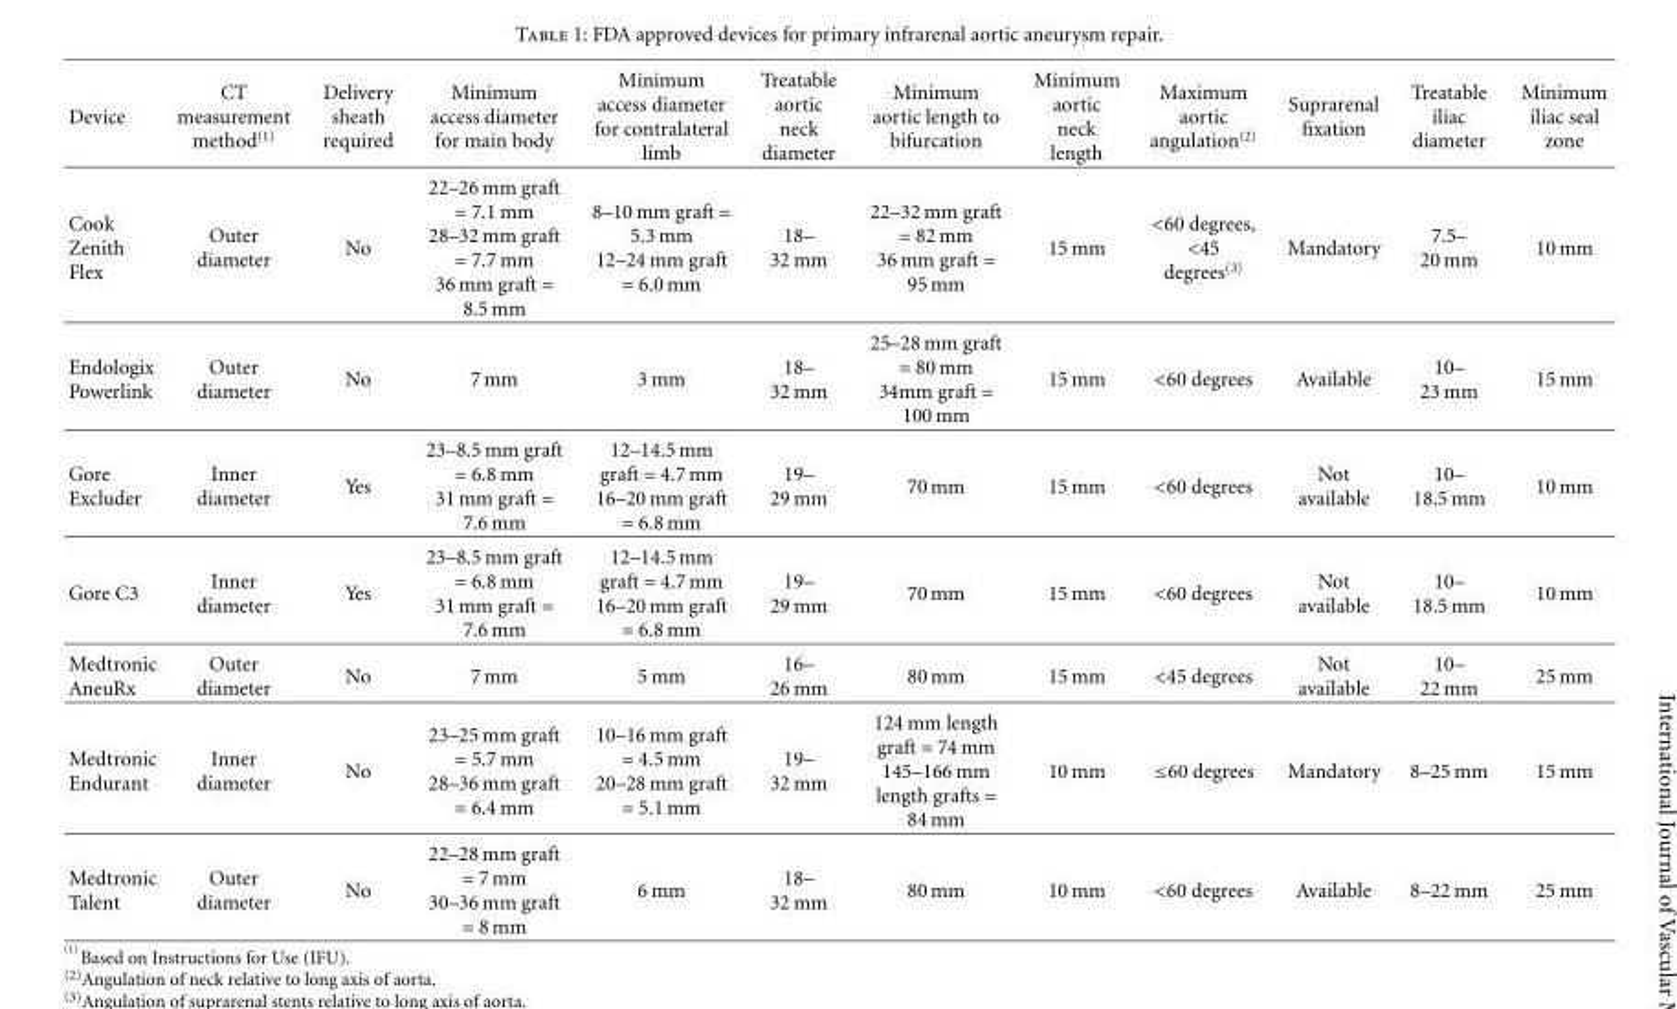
<table><thead><tr><td>Device</td><td>CT measurement method<sup>(1)</sup></td><td>Delivery sheath required</td><td>Minimum access diameter for main body</td><td>Minimum access diameter for contralateral limb</td><td>Treatable aortic neck diameter</td><td>Minimum aortic length to bifurcation</td><td>Minimum aortic neck length</td><td>Maximum aortic angulation<sup>(2)</sup></td><td>Suprarenal fixation</td><td>Treatable iliac diameter</td><td>Minimum iliac seal zone</td></tr></thead><tbody><tr><td>Cook Zenith Flex</td><td>Outer diameter</td><td>No</td><td>22–26 mm graft = 7.1 mm 28–32 mm graft = 7.7 mm 36 mm graft = 8.5 mm</td><td>8–10 mm graft = 5.3 mm 12–24 mm graft = 6.0 mm</td><td>18– 32 mm</td><td>22–32 mm graft = 82 mm 36 mm graft = 95 mm</td><td>15 mm</td><td>&lt;60 degrees, &lt;45 degrees<sup>(3)</sup></td><td>Mandatory</td><td>7.5– 20 mm</td><td>10 mm</td></tr><tr><td>Endologix Powerlink</td><td>Outer diameter</td><td>No</td><td>7 mm</td><td>3 mm</td><td>18– 32 mm</td><td>25–28 mm graft = 80 mm 34mm graft = 100 mm</td><td>15 mm</td><td>&lt;60 degrees</td><td>Available</td><td>10– 23 mm</td><td>15 mm</td></tr><tr><td>Gore Excluder</td><td>Inner diameter</td><td>Yes</td><td>23–8.5 mm graft = 6.8 mm 31 mm graft = 7.6 mm</td><td>12–14.5 mm graft = 4.7 mm 16–20 mm graft = 6.8 mm</td><td>19– 29 mm</td><td>70 mm</td><td>15 mm</td><td>&lt;60 degrees</td><td>Not available</td><td>10– 18.5 mm</td><td>10 mm</td></tr><tr><td>Gore C3</td><td>Inner diameter</td><td>Yes</td><td>23–8.5 mm graft = 6.8 mm 31 mm graft = 7.6 mm</td><td>12–14.5 mm graft = 4.7 mm 16–20 mm graft = 6.8 mm</td><td>19– 29 mm</td><td>70 mm</td><td>15 mm</td><td>&lt;60 degrees</td><td>Not available</td><td>10– 18.5 mm</td><td>10 mm</td></tr><tr><td>Medtronic AneuRx</td><td>Outer diameter</td><td>No</td><td>7 mm</td><td>5 mm</td><td>16– 26 mm</td><td>80 mm</td><td>15 mm</td><td>&lt;45 degrees</td><td>Not available</td><td>10– 22 mm</td><td>25 mm</td></tr><tr><td>Medtronic Endurant</td><td>Inner diameter</td><td>No</td><td>23–25 mm graft = 5.7 mm 28–36 mm graft = 6.4 mm</td><td>10–16 mm graft = 4.5 mm 20–28 mm graft = 5.1 mm</td><td>19– 32 mm</td><td>124 mm length graft = 74 mm 145–166 mm length grafts = 84 mm</td><td>10 mm</td><td>≤60 degrees</td><td>Mandatory</td><td>8–25 mm</td><td>15 mm</td></tr><tr><td>Medtronic Talent</td><td>Outer diameter</td><td>No</td><td>22–28 mm graft = 7 mm 30–36 mm graft = 8 mm</td><td>6 mm</td><td>18– 32 mm</td><td>80 mm</td><td>10 mm</td><td>&lt;60 degrees</td><td>Available</td><td>8–22 mm</td><td>25 mm</td></tr></tbody></table>